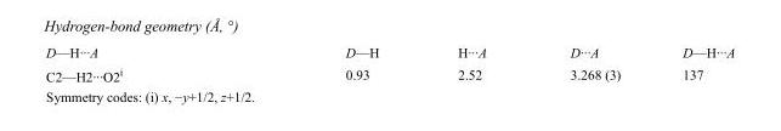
<table><tbody><tr><td>D—H···A</td><td>D—H</td><td>H···A</td><td>D···A</td><td>D—H···A</td></tr><tr><td>C2—H2···O2<sup>i</sup></td><td>0.93</td><td>2.52</td><td>3.268 (3)</td><td>137</td></tr></tbody></table>